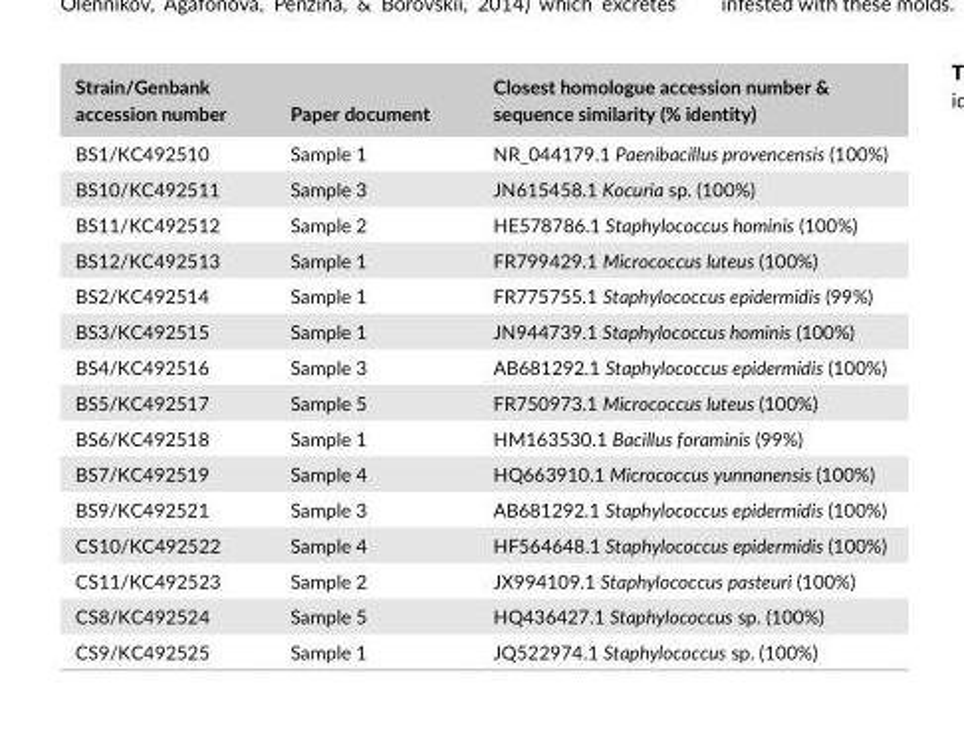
<table><thead><tr><td>Strain/Genbank accession number</td><td>Paper document</td><td>Closest homologue accession number &amp; sequence similarity (% identity)</td></tr></thead><tbody><tr><td>BS1/KC492510</td><td>Sample 1</td><td>NR_044179.1 Paenibacillus provencensis (100%)</td></tr><tr><td>BS10/KC492511</td><td>Sample 3</td><td>JN615458.1 Kocuria sp. (100%)</td></tr><tr><td>BS11/KC492512</td><td>Sample 2</td><td>HE578786.1 Staphylococcus hominis (100%)</td></tr><tr><td>BS12/KC492513</td><td>Sample 1</td><td>FR799429.1 Micrococcus luteus (100%)</td></tr><tr><td>BS2/KC492514</td><td>Sample 1</td><td>FR775755.1 Staphylococcus epidermidis (99%)</td></tr><tr><td>BS3/KC492515</td><td>Sample 1</td><td>JN944739.1 Staphylococcus hominis (100%)</td></tr><tr><td>BS4/KC492516</td><td>Sample 3</td><td>AB681292.1 Staphylococcus epidermidis (100%)</td></tr><tr><td>BS5/KC492517</td><td>Sample 5</td><td>FR750973.1 Micrococcus luteus (100%)</td></tr><tr><td>BS6/KC492518</td><td>Sample 1</td><td>HM163530.1 Bacillus foraminis (99%)</td></tr><tr><td>BS7/KC492519</td><td>Sample 4</td><td>HQ663910.1 Micrococcus yunnanensis (100%)</td></tr><tr><td>BS9/KC492521</td><td>Sample 3</td><td>AB681292.1 Staphylococcus epidermidis (100%)</td></tr><tr><td>CS10/KC492522</td><td>Sample 4</td><td>HF564648.1 Staphylococcus epidermidis (100%)</td></tr><tr><td>CS11/KC492523</td><td>Sample 2</td><td>JX994109.1 Staphylococcus pasteuri (100%)</td></tr><tr><td>CS8/KC492524</td><td>Sample 5</td><td>HQ436427.1 Staphylococcus sp. (100%)</td></tr><tr><td>CS9/KC492525</td><td>Sample 1</td><td>JQ522974.1 Staphylococcus sp. (100%)</td></tr></tbody></table>